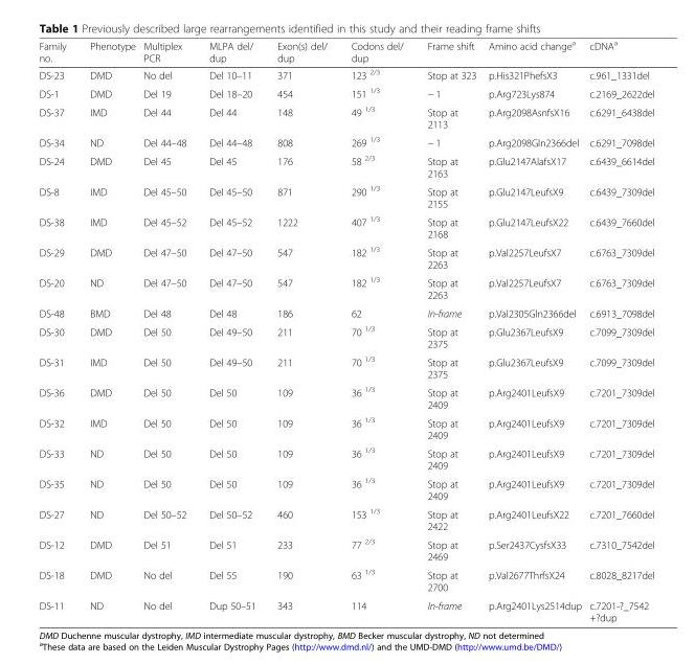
<table><thead><tr><td>Family no.</td><td>Phenotype</td><td>Multiplex PCR</td><td>MLPA del/ dup</td><td>Exon(s) del/ dup</td><td>Codons del/ dup</td><td>Frame shift</td><td>Amino acid change<sup>a</sup></td><td>cDNA<sup>a</sup></td></tr></thead><tbody><tr><td>DS-23</td><td>DMD</td><td>No del</td><td>Del 10–11</td><td>371</td><td>123 <sup>2/3</sup></td><td>Stop at 323</td><td>p.His321PhefsX3</td><td>c.961_1331del</td></tr><tr><td>DS-1</td><td>DMD</td><td>Del 19</td><td>Del 18–20</td><td>454</td><td>151 <sup>1/3</sup></td><td>− 1</td><td>p.Arg723Lys874</td><td>c.2169_2622del</td></tr><tr><td>DS-37</td><td>IMD</td><td>Del 44</td><td>Del 44</td><td>148</td><td>49 <sup>1/3</sup></td><td>Stop at 2113</td><td>p.Arg2098AsnfsX16</td><td>c.6291_6438del</td></tr><tr><td>DS-34</td><td>ND</td><td>Del 44–48</td><td>Del 44–48</td><td>808</td><td>269 <sup>1/3</sup></td><td>− 1</td><td>p.Arg2098Gln2366del</td><td>c.6291_7098del</td></tr><tr><td>DS-24</td><td>DMD</td><td>Del 45</td><td>Del 45</td><td>176</td><td>58 <sup>2/3</sup></td><td>Stop at 2163</td><td>p.Glu2147AlafsX17</td><td>c.6439_6614del</td></tr><tr><td>DS-8</td><td>IMD</td><td>Del 45–50</td><td>Del 45–50</td><td>871</td><td>290 <sup>1/3</sup></td><td>Stop at 2155</td><td>p.Glu2147LeufsX9</td><td>c.6439_7309del</td></tr><tr><td>DS-38</td><td>IMD</td><td>Del 45–52</td><td>Del 45–52</td><td>1222</td><td>407 <sup>1/3</sup></td><td>Stop at 2168</td><td>p.Glu2147LeufsX22</td><td>c.6439_7660del</td></tr><tr><td>DS-29</td><td>DMD</td><td>Del 47–50</td><td>Del 47–50</td><td>547</td><td>182 <sup>1/3</sup></td><td>Stop at 2263</td><td>p.Val2257LeufsX7</td><td>c.6763_7309del</td></tr><tr><td>DS-20</td><td>ND</td><td>Del 47–50</td><td>Del 47–50</td><td>547</td><td>182 <sup>1/3</sup></td><td>Stop at 2263</td><td>p.Val2257LeufsX7</td><td>c.6763_7309del</td></tr><tr><td>DS-48</td><td>BMD</td><td>Del 48</td><td>Del 48</td><td>186</td><td>62</td><td>In-frame</td><td>p.Val2305Gln2366del</td><td>c.6913_7098del</td></tr><tr><td>DS-30</td><td>DMD</td><td>Del 50</td><td>Del 49–50</td><td>211</td><td>70 <sup>1/3</sup></td><td>Stop at 2375</td><td>p.Glu2367LeufsX9</td><td>c.7099_7309del</td></tr><tr><td>DS-31</td><td>IMD</td><td>Del 50</td><td>Del 49–50</td><td>211</td><td>70 <sup>1/3</sup></td><td>Stop at 2375</td><td>p.Glu2367LeufsX9</td><td>c.7099_7309del</td></tr><tr><td>DS-36</td><td>DMD</td><td>Del 50</td><td>Del 50</td><td>109</td><td>36 <sup>1/3</sup></td><td>Stop at 2409</td><td>p.Arg2401LeufsX9</td><td>c.7201_7309del</td></tr><tr><td>DS-32</td><td>IMD</td><td>Del 50</td><td>Del 50</td><td>109</td><td>36 <sup>1/3</sup></td><td>Stop at 2409</td><td>p.Arg2401LeufsX9</td><td>c.7201_7309del</td></tr><tr><td>DS-33</td><td>ND</td><td>Del 50</td><td>Del 50</td><td>109</td><td>36 <sup>1/3</sup></td><td>Stop at 2409</td><td>p.Arg2401LeufsX9</td><td>c.7201_7309del</td></tr><tr><td>DS-35</td><td>ND</td><td>Del 50</td><td>Del 50</td><td>109</td><td>36 <sup>1/3</sup></td><td>Stop at 2409</td><td>p.Arg2401LeufsX9</td><td>c.7201_7309del</td></tr><tr><td>DS-27</td><td>ND</td><td>Del 50–52</td><td>Del 50–52</td><td>460</td><td>153 <sup>1/3</sup></td><td>Stop at 2422</td><td>p.Arg2401LeufsX22</td><td>c.7201_7660del</td></tr><tr><td>DS-12</td><td>DMD</td><td>Del 51</td><td>Del 51</td><td>233</td><td>77 <sup>2/3</sup></td><td>Stop at 2469</td><td>p.Ser2437CysfsX33</td><td>c.7310_7542del</td></tr><tr><td>DS-18</td><td>DMD</td><td>No del</td><td>Del 55</td><td>190</td><td>63 <sup>1/3</sup></td><td>Stop at 2700</td><td>p.Val2677ThrfsX24</td><td>c.8028_8217del</td></tr><tr><td>DS-11</td><td>ND</td><td>No del</td><td>Dup 50–51</td><td>343</td><td>114</td><td>In-frame</td><td>p.Arg2401Lys2514dup</td><td>c.7201-?_7542 +?dup</td></tr></tbody></table>